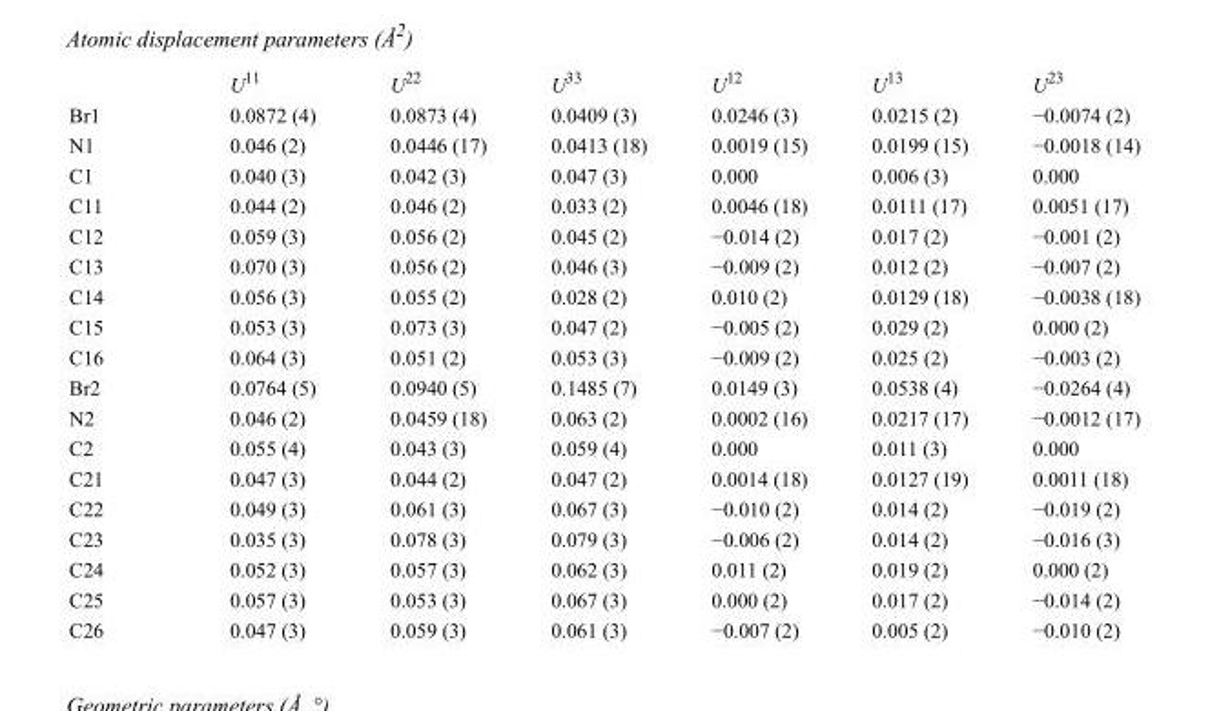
<table><thead><tr><td></td><td>U<sup>11</sup></td><td>U<sup>22</sup></td><td>U<sup>33</sup></td><td>U<sup>12</sup></td><td>U<sup>13</sup></td><td>U<sup>23</sup></td></tr></thead><tbody><tr><td>Br1</td><td>0.0872 (4)</td><td>0.0873 (4)</td><td>0.0409 (3)</td><td>0.0246 (3)</td><td>0.0215 (2)</td><td>−0.0074 (2)</td></tr><tr><td>N1</td><td>0.046 (2)</td><td>0.0446 (17)</td><td>0.0413 (18)</td><td>0.0019 (15)</td><td>0.0199 (15)</td><td>−0.0018 (14)</td></tr><tr><td>C1</td><td>0.040 (3)</td><td>0.042 (3)</td><td>0.047 (3)</td><td>0.000</td><td>0.006 (3)</td><td>0.000</td></tr><tr><td>C11</td><td>0.044 (2)</td><td>0.046 (2)</td><td>0.033 (2)</td><td>0.0046 (18)</td><td>0.0111 (17)</td><td>0.0051 (17)</td></tr><tr><td>C12</td><td>0.059 (3)</td><td>0.056 (2)</td><td>0.045 (2)</td><td>−0.014 (2)</td><td>0.017 (2)</td><td>−0.001 (2)</td></tr><tr><td>C13</td><td>0.070 (3)</td><td>0.056 (2)</td><td>0.046 (3)</td><td>−0.009 (2)</td><td>0.012 (2)</td><td>−0.007 (2)</td></tr><tr><td>C14</td><td>0.056 (3)</td><td>0.055 (2)</td><td>0.028 (2)</td><td>0.010 (2)</td><td>0.0129 (18)</td><td>−0.0038 (18)</td></tr><tr><td>C15</td><td>0.053 (3)</td><td>0.073 (3)</td><td>0.047 (2)</td><td>−0.005 (2)</td><td>0.029 (2)</td><td>0.000 (2)</td></tr><tr><td>C16</td><td>0.064 (3)</td><td>0.051 (2)</td><td>0.053 (3)</td><td>−0.009 (2)</td><td>0.025 (2)</td><td>−0.003 (2)</td></tr><tr><td>Br2</td><td>0.0764 (5)</td><td>0.0940 (5)</td><td>0.1485 (7)</td><td>0.0149 (3)</td><td>0.0538 (4)</td><td>−0.0264 (4)</td></tr><tr><td>N2</td><td>0.046 (2)</td><td>0.0459 (18)</td><td>0.063 (2)</td><td>0.0002 (16)</td><td>0.0217 (17)</td><td>−0.0012 (17)</td></tr><tr><td>C2</td><td>0.055 (4)</td><td>0.043 (3)</td><td>0.059 (4)</td><td>0.000</td><td>0.011 (3)</td><td>0.000</td></tr><tr><td>C21</td><td>0.047 (3)</td><td>0.044 (2)</td><td>0.047 (2)</td><td>0.0014 (18)</td><td>0.0127 (19)</td><td>0.0011 (18)</td></tr><tr><td>C22</td><td>0.049 (3)</td><td>0.061 (3)</td><td>0.067 (3)</td><td>−0.010 (2)</td><td>0.014 (2)</td><td>−0.019 (2)</td></tr><tr><td>C23</td><td>0.035 (3)</td><td>0.078 (3)</td><td>0.079 (3)</td><td>−0.006 (2)</td><td>0.014 (2)</td><td>−0.016 (3)</td></tr><tr><td>C24</td><td>0.052 (3)</td><td>0.057 (3)</td><td>0.062 (3)</td><td>0.011 (2)</td><td>0.019 (2)</td><td>0.000 (2)</td></tr><tr><td>C25</td><td>0.057 (3)</td><td>0.053 (3)</td><td>0.067 (3)</td><td>0.000 (2)</td><td>0.017 (2)</td><td>−0.014 (2)</td></tr><tr><td>C26</td><td>0.047 (3)</td><td>0.059 (3)</td><td>0.061 (3)</td><td>−0.007 (2)</td><td>0.005 (2)</td><td>−0.010 (2)</td></tr></tbody></table>